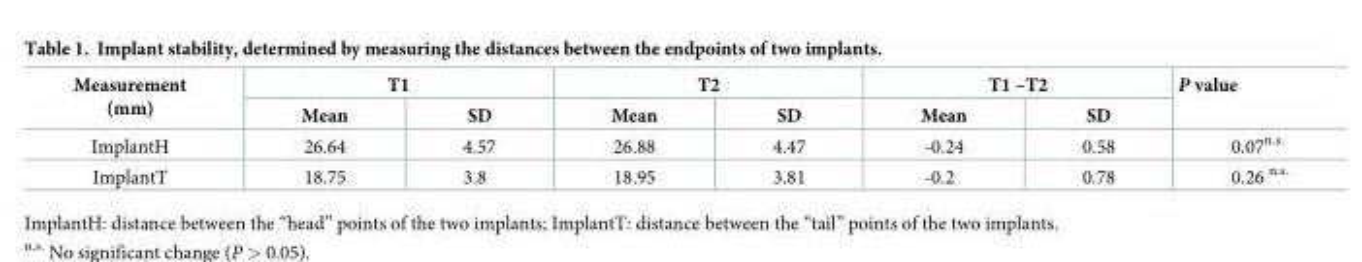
<table><thead><tr><td rowspan="2">Measurement (mm)</td><td colspan="2">T1</td><td colspan="2">T2</td><td colspan="2">T1 –T2</td><td rowspan="2">P value</td></tr><tr><td>Mean</td><td>SD</td><td>Mean</td><td>SD</td><td>Mean</td><td>SD</td></tr></thead><tbody><tr><td>ImplantH</td><td>26.64</td><td>4.57</td><td>26.88</td><td>4.47</td><td>-0.24</td><td>0.58</td><td>0.07<sup>n.s.</sup></td></tr><tr><td>ImplantT</td><td>18.75</td><td>3.8</td><td>18.95</td><td>3.81</td><td>-0.2</td><td>0.78</td><td>0.26 <sup>n.s.</sup></td></tr></tbody></table>